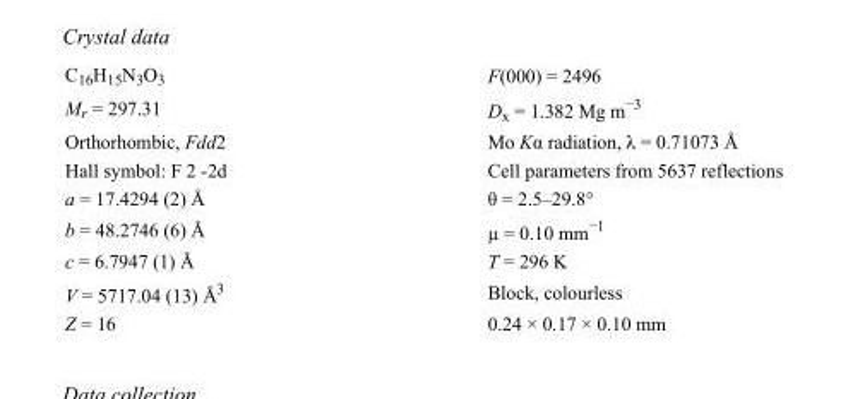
<table><tbody><tr><td>C<sub>16</sub>H<sub>15</sub>N<sub>3</sub>O<sub>3</sub></td><td>F(000) = 2496</td></tr><tr><td>M<sub>r</sub> = 297.31</td><td>D<sub>x</sub> = 1.382 Mg m<sup>−3</sup></td></tr><tr><td>Orthorhombic, Fdd2</td><td>Mo Kα radiation, λ = 0.71073 Å</td></tr><tr><td>Hall symbol: F 2 -2d</td><td>Cell parameters from 5637 reflections</td></tr><tr><td>a = 17.4294 (2) Å</td><td>θ = 2.5–29.8°</td></tr><tr><td>b = 48.2746 (6) Å</td><td>µ = 0.10 mm<sup>−1</sup></td></tr><tr><td>c = 6.7947 (1) Å</td><td>T = 296 K</td></tr><tr><td>V = 5717.04 (13) Å<sup>3</sup></td><td>Block, colourless</td></tr><tr><td>Z = 16</td><td>0.24 × 0.17 × 0.10 mm</td></tr></tbody></table>